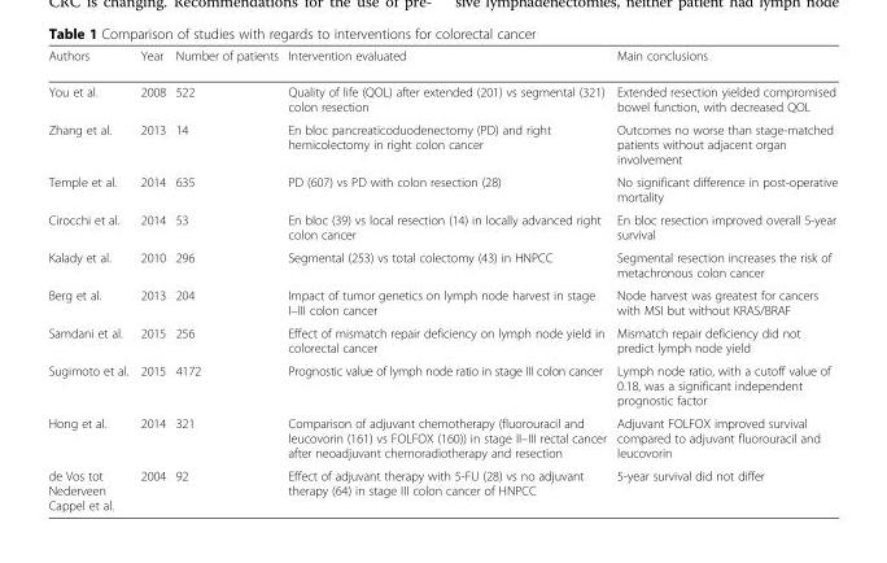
<table><thead><tr><td>Authors</td><td>Year</td><td>Number of patients</td><td>Intervention evaluated</td><td>Main conclusions</td></tr></thead><tbody><tr><td>You et al.</td><td>2008</td><td>522</td><td>Quality of life (QOL) after extended (201) vs segmental (321) colon resection</td><td>Extended resection yielded compromised bowel function, with decreased QOL</td></tr><tr><td>Zhang et al.</td><td>2013</td><td>14</td><td>En bloc pancreaticoduodenectomy (PD) and right hemicolectomy in right colon cancer</td><td>Outcomes no worse than stage-matched patients without adjacent organ involvement</td></tr><tr><td>Temple et al.</td><td>2014</td><td>635</td><td>PD (607) vs PD with colon resection (28)</td><td>No significant difference in post-operative mortality</td></tr><tr><td>Cirocchi et al.</td><td>2014</td><td>53</td><td>En bloc (39) vs local resection (14) in locally advanced right colon cancer</td><td>En bloc resection improved overall 5-year survival</td></tr><tr><td>Kalady et al.</td><td>2010</td><td>296</td><td>Segmental (253) vs total colectomy (43) in HNPCC</td><td>Segmental resection increases the risk of metachronous colon cancer</td></tr><tr><td>Berg et al.</td><td>2013</td><td>204</td><td>Impact of tumor genetics on lymph node harvest in stage I–III colon cancer</td><td>Node harvest was greatest for cancers with MSI but without KRAS/BRAF</td></tr><tr><td>Samdani et al.</td><td>2015</td><td>256</td><td>Effect of mismatch repair deficiency on lymph node yield in colorectal cancer</td><td>Mismatch repair deficiency did not predict lymph node yield</td></tr><tr><td>Sugimoto et al.</td><td>2015</td><td>4172</td><td>Prognostic value of lymph node ratio in stage III colon cancer</td><td>Lymph node ratio, with a cutoff value of 0.18, was a significant independent prognostic factor</td></tr><tr><td>Hong et al.</td><td>2014</td><td>321</td><td>Comparison of adjuvant chemotherapy (fluorouracil and leucovorin (161) vs FOLFOX (160)) in stage II–III rectal cancer after neoadjuvant chemoradiotherapy and resection</td><td>Adjuvant FOLFOX improved survival compared to adjuvant fluorouracil and leucovorin</td></tr><tr><td>de Vos tot Nederveen Cappel et al.</td><td>2004</td><td>92</td><td>Effect of adjuvant therapy with 5-FU (28) vs no adjuvant therapy (64) in stage III colon cancer of HNPCC</td><td>5-year survival did not differ</td></tr></tbody></table>